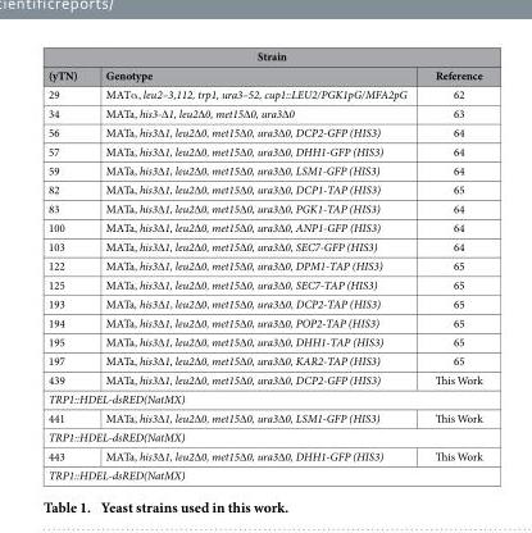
<table><thead><tr><td colspan="3">Strain</td></tr><tr><td>(yTN)</td><td>Genotype</td><td>Reference</td></tr></thead><tbody><tr><td>29</td><td>MATα , leu2–3,112, trp1, ura3–52, cup1::LEU2/PGK1pG/MFA2pG</td><td>62</td></tr><tr><td>34</td><td>MATa, his3-∆1, leu2∆0, met15∆0, ura3∆0</td><td>63</td></tr><tr><td>56</td><td>MATa, his3∆1, leu2∆0, met15∆0, ura3∆0, DCP2-GFP (HIS3)</td><td>64</td></tr><tr><td>57</td><td>MATa, his3∆1, leu2∆0, met15∆0, ura3∆0, DHH1-GFP (HIS3)</td><td>64</td></tr><tr><td>59</td><td>MATa, his3∆1, leu2∆0, met15∆0, ura3∆0, LSM1-GFP (HIS3)</td><td>64</td></tr><tr><td>82</td><td>MATa, his3∆1, leu2∆0, met15∆0, ura3∆0, DCP1-TAP (HIS3)</td><td>65</td></tr><tr><td>83</td><td>MATa, his3∆1, leu2∆0, met15∆0, ura3∆0, PGK1-TAP (HIS3)</td><td>64</td></tr><tr><td>100</td><td>MATa, his3∆1, leu2∆0, met15∆0, ura3∆0, ANP1-GFP (HIS3)</td><td>64</td></tr><tr><td>103</td><td>MATa, his3∆1, leu2∆0, met15∆0, ura3∆0, SEC7-GFP (HIS3)</td><td>64</td></tr><tr><td>122</td><td>MATa, his3∆1, leu2∆0, met15∆0, ura3∆0, DPM1-TAP (HIS3)</td><td>65</td></tr><tr><td>125</td><td>MATa, his3∆1, leu2∆0, met15∆0, ura3∆0, SEC7-TAP (HIS3)</td><td>65</td></tr><tr><td>193</td><td>MATa, his3∆1, leu2∆0, met15∆0, ura3∆0, DCP2-TAP (HIS3)</td><td>65</td></tr><tr><td>194</td><td>MATa, his3∆1, leu2∆0, met15∆0, ura3∆0, POP2-TAP (HIS3)</td><td>65</td></tr><tr><td>195</td><td>MATa, his3∆1, leu2∆0, met15∆0, ura3∆0, DHH1-TAP (HIS3)</td><td>65</td></tr><tr><td>197</td><td>MATa, his3∆1, leu2∆0, met15∆0, ura3∆0, KAR2-TAP (HIS3)</td><td>65</td></tr><tr><td>439</td><td>MATa, his3∆1, leu2∆0, met15∆0, ura3∆0, DCP2-GFP (HIS3)</td><td>This Work</td></tr><tr><td colspan="3">TRP1::HDEL-dsRED(NatMX)</td></tr><tr><td>441</td><td>MATa, his3∆1, leu2∆0, met15∆0, ura3∆0, LSM1-GFP (HIS3)</td><td>This Work</td></tr><tr><td colspan="3">TRP1::HDEL-dsRED(NatMX)</td></tr><tr><td>443</td><td>MATa, his3∆1, leu2∆0, met15∆0, ura3∆0, DHH1-GFP (HIS3)</td><td>This Work</td></tr><tr><td colspan="3">TRP1::HDEL-dsRED(NatMX)</td></tr></tbody></table>